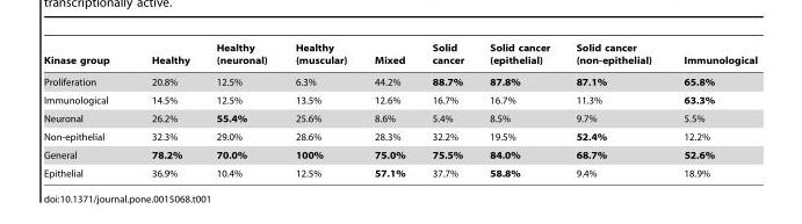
<table><thead><tr><td>Kinase group</td><td>Healthy</td><td>Healthy (neuronal)</td><td>Healthy (muscular)</td><td>Mixed</td><td>Solid cancer</td><td>Solid cancer (epithelial)</td><td>Solid cancer (non-epithelial)</td><td>Immunological</td></tr></thead><tbody><tr><td>Proliferation</td><td>20.8%</td><td>12.5%</td><td>6.3%</td><td>44.2%</td><td>88.7%</td><td>87.8%</td><td>87.1%</td><td>65.8%</td></tr><tr><td>Immunological</td><td>14.5%</td><td>12.5%</td><td>13.5%</td><td>12.6%</td><td>16.7%</td><td>16.7%</td><td>11.3%</td><td>63.3%</td></tr><tr><td>Neuronal</td><td>26.2%</td><td>55.4%</td><td>25.6%</td><td>8.6%</td><td>5.4%</td><td>8.5%</td><td>9.7%</td><td>5.5%</td></tr><tr><td>Non-epithelial</td><td>32.3%</td><td>29.0%</td><td>28.6%</td><td>28.3%</td><td>32.2%</td><td>19.5%</td><td>52.4%</td><td>12.2%</td></tr><tr><td>General</td><td>78.2%</td><td>70.0%</td><td>100%</td><td>75.0%</td><td>75.5%</td><td>84.0%</td><td>68.7%</td><td>52.6%</td></tr><tr><td>Epithelial</td><td>36.9%</td><td>10.4%</td><td>12.5%</td><td>57.1%</td><td>37.7%</td><td>58.8%</td><td>9.4%</td><td>18.9%</td></tr></tbody></table>